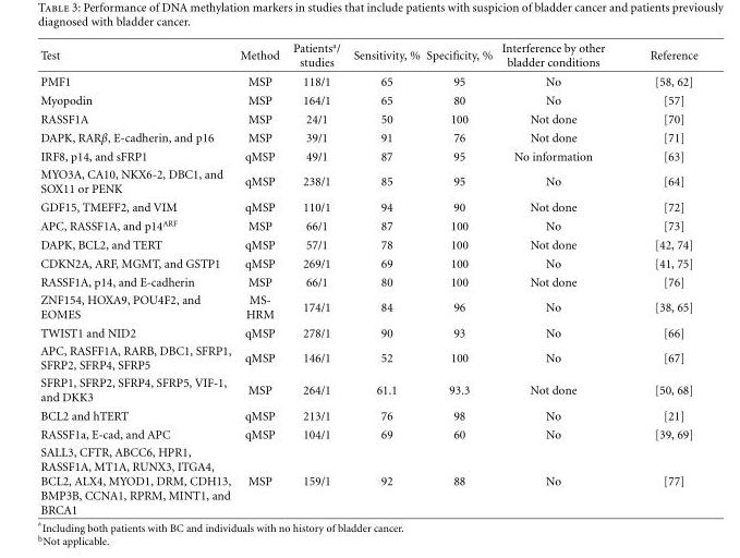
<table><thead><tr><td>Test</td><td>Method</td><td>Patients<sup>a</sup>/ studies</td><td>Sensitivity, %</td><td>Specificity, %</td><td>Interference by other bladder conditions</td><td>Reference</td></tr></thead><tbody><tr><td>PMF1</td><td>MSP</td><td>118/1</td><td>65</td><td>95</td><td>No</td><td>[58, 62]</td></tr><tr><td>Myopodin</td><td>MSP</td><td>164/1</td><td>65</td><td>80</td><td>No</td><td>[57]</td></tr><tr><td>RASSF1A</td><td>MSP</td><td>24/1</td><td>50</td><td>100</td><td>Not done</td><td>[70]</td></tr><tr><td>DAPK, RARβ, E-cadherin, and p16</td><td>MSP</td><td>39/1</td><td>91</td><td>76</td><td>Not done</td><td>[71]</td></tr><tr><td>IRF8, p14, and sFRP1</td><td>qMSP</td><td>49/1</td><td>87</td><td>95</td><td>No information</td><td>[63]</td></tr><tr><td>MYO3A, CA10, NKX6-2, DBC1, and SOX11 or PENK</td><td>qMSP</td><td>238/1</td><td>85</td><td>95</td><td>No</td><td>[64]</td></tr><tr><td>GDF15, TMEFF2, and VIM</td><td>qMSP</td><td>110/1</td><td>94</td><td>90</td><td>Not done</td><td>[72]</td></tr><tr><td>APC, RASSF1A, and p14<sup>ARF</sup></td><td>MSP</td><td>66/1</td><td>87</td><td>100</td><td>No</td><td>[73]</td></tr><tr><td>DAPK, BCL2, and TERT</td><td>qMSP</td><td>57/1</td><td>78</td><td>100</td><td>Not done</td><td>[42, 74]</td></tr><tr><td>CDKN2A, ARF, MGMT, and GSTP1</td><td>qMSP</td><td>269/1</td><td>69</td><td>100</td><td>No</td><td>[41, 75]</td></tr><tr><td>RASSF1A, p14, and E-cadherin</td><td>MSP</td><td>66/1</td><td>80</td><td>100</td><td>Not done</td><td>[76]</td></tr><tr><td>ZNF154, HOXA9, POU4F2, and EOMES</td><td>MS- HRM</td><td>174/1</td><td>84</td><td>96</td><td>No</td><td>[38, 65]</td></tr><tr><td>TWIST1 and NID2</td><td>qMSP</td><td>278/1</td><td>90</td><td>93</td><td>No</td><td>[66]</td></tr><tr><td>APC, RASFF1A, RARB, DBC1, SFRP1, SFRP2, SFRP4, SFRP5</td><td>qMSP</td><td>146/1</td><td>52</td><td>100</td><td>No</td><td>[67]</td></tr><tr><td>SFRP1, SFRP2, SFRP4, SFRP5, VIF-1, and DKK3</td><td>MSP</td><td>264/1</td><td>61.1</td><td>93.3</td><td>Not done</td><td>[50, 68]</td></tr><tr><td>BCL2 and hTERT</td><td>qMSP</td><td>213/1</td><td>76</td><td>98</td><td>No</td><td>[21]</td></tr><tr><td>RASSF1a, E-cad, and APC</td><td>qMSP</td><td>104/1</td><td>69</td><td>60</td><td>No</td><td>[39, 69]</td></tr><tr><td>SALL3, CFTR, ABCC6, HPR1, RASSF1A, MT1A, RUNX3, ITGA4, BCL2, ALX4, MYOD1, DRM, CDH13, BMP3B, CCNA1, RPRM, MINT1, and BRCA1</td><td>MSP</td><td>159/1</td><td>92</td><td>88</td><td>No</td><td>[77]</td></tr></tbody></table>